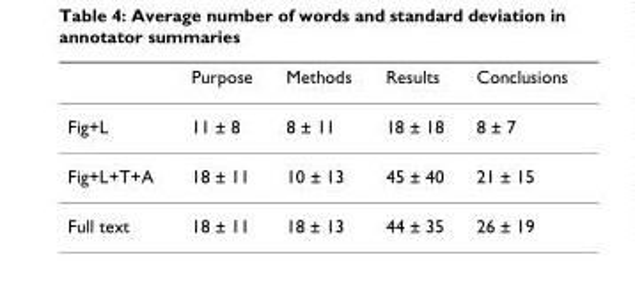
<table><thead><tr><td></td><td>Purpose</td><td>Methods</td><td>Results</td><td>Conclusions</td></tr></thead><tbody><tr><td>Fig+L</td><td>11 ± 8</td><td>8 ± 11</td><td>18 ± 18</td><td>8 ± 7</td></tr><tr><td>Fig+L+T+A</td><td>18 ± 11</td><td>10 ± 13</td><td>45 ± 40</td><td>21 ± 15</td></tr><tr><td>Full text</td><td>18 ± 11</td><td>18 ± 13</td><td>44 ± 35</td><td>26 ± 19</td></tr></tbody></table>